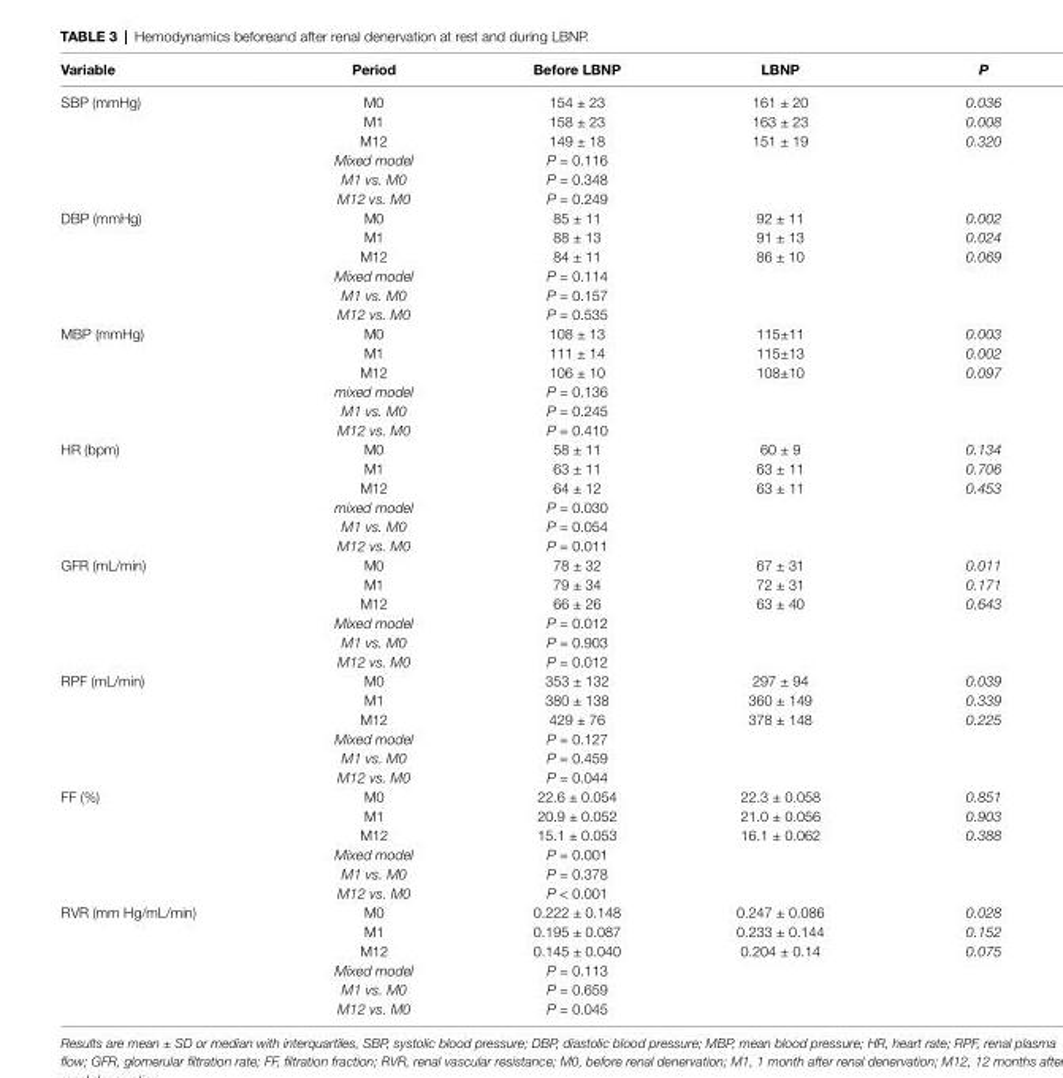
<table><thead><tr><td>Variable</td><td>Period</td><td>Before lBnP</td><td>lBnP</td><td>P</td></tr></thead><tbody><tr><td rowspan="6">SBP (mmHg)</td><td>M0</td><td>154 ± 23</td><td>161 ± 20</td><td>0.036</td></tr><tr><td>M1</td><td>158 ± 23</td><td>163 ± 23</td><td>0.008</td></tr><tr><td>M12</td><td>149 ± 18</td><td>151 ± 19</td><td>0.320</td></tr><tr><td>Mixed model</td><td>P = 0.116</td><td></td><td></td></tr><tr><td>M1 vs. M0</td><td>P = 0.348</td><td></td><td></td></tr><tr><td>M12 vs. M0</td><td>P = 0.249</td><td></td><td></td></tr><tr><td rowspan="6">DBP (mmHg)</td><td>M0</td><td>85 ± 11</td><td>92 ± 11</td><td>0.002</td></tr><tr><td>M1</td><td>88 ± 13</td><td>91 ± 13</td><td>0.024</td></tr><tr><td>M12</td><td>84 ± 11</td><td>86 ± 10</td><td>0.069</td></tr><tr><td>Mixed model</td><td>P = 0.114</td><td></td><td></td></tr><tr><td>M1 vs. M0</td><td>P = 0.157</td><td></td><td></td></tr><tr><td>M12 vs. M0</td><td>P = 0.535</td><td></td><td></td></tr><tr><td rowspan="6">MBP (mmHg)</td><td>M0</td><td>108 ± 13</td><td>115±11</td><td>0.003</td></tr><tr><td>M1</td><td>111 ± 14</td><td>115±13</td><td>0.002</td></tr><tr><td>M12</td><td>106 ± 10</td><td>108±10</td><td>0.097</td></tr><tr><td>mixed model</td><td>P = 0.136</td><td></td><td></td></tr><tr><td>M1 vs. M0</td><td>P = 0.245</td><td></td><td></td></tr><tr><td>M12 vs. M0</td><td>P = 0.410</td><td></td><td></td></tr><tr><td rowspan="6">HR (bpm)</td><td>M0</td><td>58 ± 11</td><td>60 ± 9</td><td>0.134</td></tr><tr><td>M1</td><td>63 ± 11</td><td>63 ± 11</td><td>0.706</td></tr><tr><td>M12</td><td>64 ± 12</td><td>63 ± 11</td><td>0.453</td></tr><tr><td>mixed model</td><td>P = 0.030</td><td></td><td></td></tr><tr><td>M1 vs. M0</td><td>P = 0.054</td><td></td><td></td></tr><tr><td>M12 vs. M0</td><td>P = 0.011</td><td></td><td></td></tr><tr><td rowspan="6">GFR (mL/min)</td><td>M0</td><td>78 ± 32</td><td>67 ± 31</td><td>0.011</td></tr><tr><td>M1</td><td>79 ± 34</td><td>72 ± 31</td><td>0.171</td></tr><tr><td>M12</td><td>66 ± 26</td><td>63 ± 40</td><td>0.643</td></tr><tr><td>Mixed model</td><td>P = 0.012</td><td></td><td></td></tr><tr><td>M1 vs. M0</td><td>P = 0.903</td><td></td><td></td></tr><tr><td>M12 vs. M0</td><td>P = 0.012</td><td></td><td></td></tr><tr><td rowspan="6">RPF (mL/min)</td><td>M0</td><td>353 ± 132</td><td>297 ± 94</td><td>0.039</td></tr><tr><td>M1</td><td>380 ± 138</td><td>360 ± 149</td><td>0.339</td></tr><tr><td>M12</td><td>429 ± 76</td><td>378 ± 148</td><td>0.225</td></tr><tr><td>Mixed model</td><td>P = 0.127</td><td></td><td></td></tr><tr><td>M1 vs. M0</td><td>P = 0.459</td><td></td><td></td></tr><tr><td>M12 vs. M0</td><td>P = 0.044</td><td></td><td></td></tr><tr><td rowspan="6">FF (%)</td><td>M0</td><td>22.6 ± 0.054</td><td>22.3 ± 0.058</td><td>0.851</td></tr><tr><td>M1</td><td>20.9 ± 0.052</td><td>21.0 ± 0.056</td><td>0.903</td></tr><tr><td>M12</td><td>15.1 ± 0.053</td><td>16.1 ± 0.062</td><td>0.388</td></tr><tr><td>Mixed model</td><td>P = 0.001</td><td></td><td></td></tr><tr><td>M1 vs. M0</td><td>P = 0.378</td><td></td><td></td></tr><tr><td>M12 vs. M0</td><td>P &lt; 0.001</td><td></td><td></td></tr><tr><td rowspan="6">RVR (mm Hg/mL/min)</td><td>M0</td><td>0.222 ± 0.148</td><td>0.247 ± 0.086</td><td>0.028</td></tr><tr><td>M1</td><td>0.195 ± 0.087</td><td>0.233 ± 0.144</td><td>0.152</td></tr><tr><td>M12</td><td>0.145 ± 0.040</td><td>0.204 ± 0.14</td><td>0.075</td></tr><tr><td>Mixed model</td><td>P = 0.113</td><td></td><td></td></tr><tr><td>M1 vs. M0</td><td>P = 0.659</td><td></td><td></td></tr><tr><td>M12 vs. M0</td><td>P = 0.045</td><td></td><td></td></tr></tbody></table>